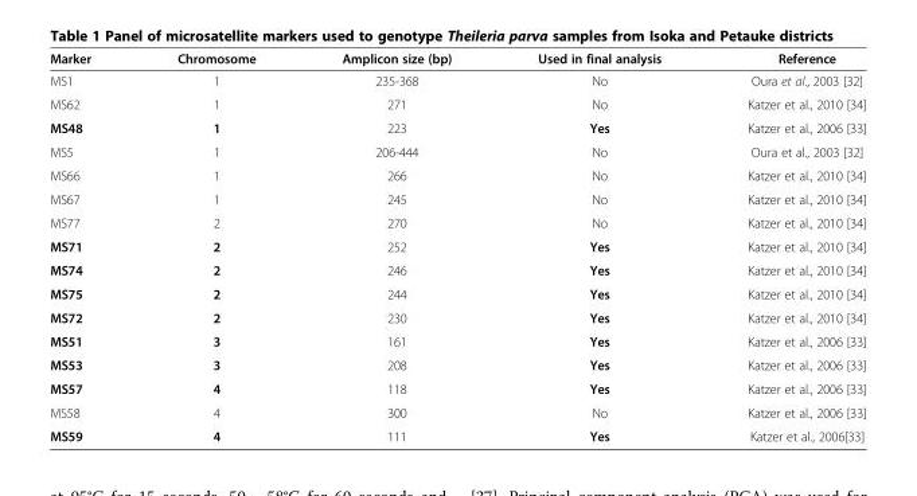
<table><thead><tr><td>Marker</td><td>Chromosome</td><td>Amplicon size (bp)</td><td>Used in final analysis</td><td>Reference</td></tr></thead><tbody><tr><td>MS1</td><td>1</td><td>235-368</td><td>No</td><td>Oura et al., 2003 [32]</td></tr><tr><td>MS62</td><td>1</td><td>271</td><td>No</td><td>Katzer et al., 2010 [34]</td></tr><tr><td>MS48</td><td>1</td><td>223</td><td>Yes</td><td>Katzer et al., 2006 [33]</td></tr><tr><td>MS5</td><td>1</td><td>206-444</td><td>No</td><td>Oura et al., 2003 [32]</td></tr><tr><td>MS66</td><td>1</td><td>266</td><td>No</td><td>Katzer et al., 2010 [34]</td></tr><tr><td>MS67</td><td>1</td><td>245</td><td>No</td><td>Katzer et al., 2010 [34]</td></tr><tr><td>MS77</td><td>2</td><td>270</td><td>No</td><td>Katzer et al., 2010 [34]</td></tr><tr><td>MS71</td><td>2</td><td>252</td><td>Yes</td><td>Katzer et al., 2010 [34]</td></tr><tr><td>MS74</td><td>2</td><td>246</td><td>Yes</td><td>Katzer et al., 2010 [34]</td></tr><tr><td>MS75</td><td>2</td><td>244</td><td>Yes</td><td>Katzer et al., 2010 [34]</td></tr><tr><td>MS72</td><td>2</td><td>230</td><td>Yes</td><td>Katzer et al., 2010 [34]</td></tr><tr><td>MS51</td><td>3</td><td>161</td><td>Yes</td><td>Katzer et al., 2006 [33]</td></tr><tr><td>MS53</td><td>3</td><td>208</td><td>Yes</td><td>Katzer et al., 2006 [33]</td></tr><tr><td>MS57</td><td>4</td><td>118</td><td>Yes</td><td>Katzer et al., 2006 [33]</td></tr><tr><td>MS58</td><td>4</td><td>300</td><td>No</td><td>Katzer et al., 2006 [33]</td></tr><tr><td>MS59</td><td>4</td><td>111</td><td>Yes</td><td>Katzer et al., 2006[33]</td></tr></tbody></table>